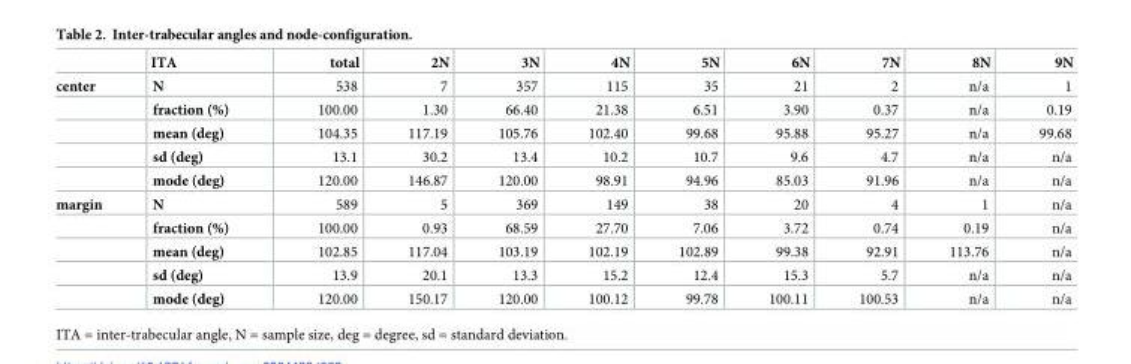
<table><thead><tr><td></td><td>ITA</td><td>total</td><td>2N</td><td>3N</td><td>4N</td><td>5N</td><td>6N</td><td>7N</td><td>8N</td><td>9N</td></tr></thead><tbody><tr><td rowspan="5">center</td><td>N</td><td>538</td><td>7</td><td>357</td><td>115</td><td>35</td><td>21</td><td>2</td><td>n/a</td><td>1</td></tr><tr><td>fraction (%)</td><td>100.00</td><td>1.30</td><td>66.40</td><td>21.38</td><td>6.51</td><td>3.90</td><td>0.37</td><td>n/a</td><td>0.19</td></tr><tr><td>mean (deg)</td><td>104.35</td><td>117.19</td><td>105.76</td><td>102.40</td><td>99.68</td><td>95.88</td><td>95.27</td><td>n/a</td><td>99.68</td></tr><tr><td>sd (deg)</td><td>13.1</td><td>30.2</td><td>13.4</td><td>10.2</td><td>10.7</td><td>9.6</td><td>4.7</td><td>n/a</td><td>n/a</td></tr><tr><td>mode (deg)</td><td>120.00</td><td>146.87</td><td>120.00</td><td>98.91</td><td>94.96</td><td>85.03</td><td>91.96</td><td>n/a</td><td>n/a</td></tr><tr><td rowspan="5">margin</td><td>N</td><td>589</td><td>5</td><td>369</td><td>149</td><td>38</td><td>20</td><td>4</td><td>1</td><td>n/a</td></tr><tr><td>fraction (%)</td><td>100.00</td><td>0.93</td><td>68.59</td><td>27.70</td><td>7.06</td><td>3.72</td><td>0.74</td><td>0.19</td><td>n/a</td></tr><tr><td>mean (deg)</td><td>102.85</td><td>117.04</td><td>103.19</td><td>102.19</td><td>102.89</td><td>99.38</td><td>92.91</td><td>113.76</td><td>n/a</td></tr><tr><td>sd (deg)</td><td>13.9</td><td>20.1</td><td>13.3</td><td>15.2</td><td>12.4</td><td>15.3</td><td>5.7</td><td>n/a</td><td>n/a</td></tr><tr><td>mode (deg)</td><td>120.00</td><td>150.17</td><td>120.00</td><td>100.12</td><td>99.78</td><td>100.11</td><td>100.53</td><td>n/a</td><td>n/a</td></tr></tbody></table>